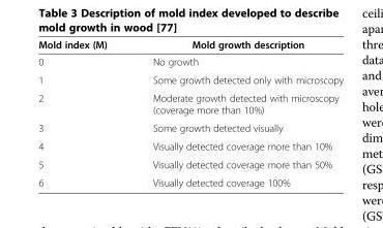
<table><thead><tr><td>Mold index (M)</td><td>Mold growth description</td></tr></thead><tbody><tr><td>0</td><td>No growth</td></tr><tr><td>1</td><td>Some growth detected only with microscopy</td></tr><tr><td>2</td><td>Moderate growth detected with microscopy (coverage more than 10%)</td></tr><tr><td>3</td><td>Some growth detected visually</td></tr><tr><td>4</td><td>Visually detected coverage more than 10%</td></tr><tr><td>5</td><td>Visually detected coverage more than 50%</td></tr><tr><td>6</td><td>Visually detected coverage 100%</td></tr></tbody></table>